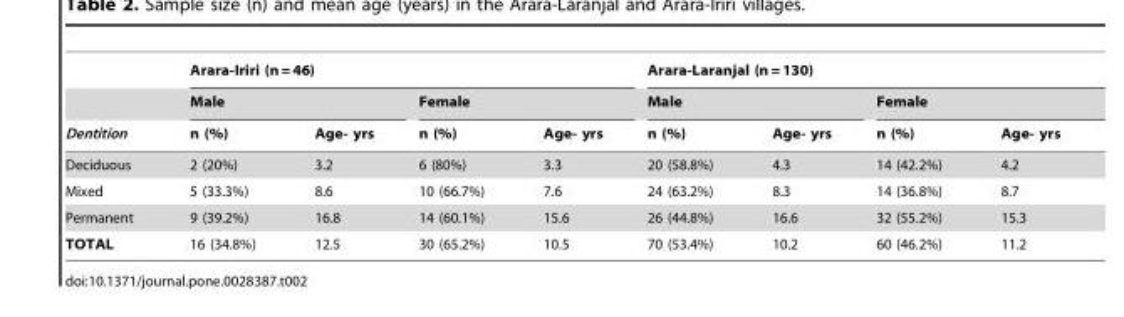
<table><thead><tr><td rowspan="3">Dentition</td><td colspan="4">Arara-Iriri (n = 46)</td><td colspan="4">Arara-Laranjal (n = 130)</td></tr><tr><td colspan="2">Male</td><td colspan="2">Female</td><td colspan="2">Male</td><td colspan="2">Female</td></tr><tr><td>n (%)</td><td>Age- yrs</td><td>n (%)</td><td>Age- yrs</td><td>n (%)</td><td>Age- yrs</td><td>n (%)</td><td>Age- yrs</td></tr></thead><tbody><tr><td>Deciduous</td><td>2 (20%)</td><td>3.2</td><td>6 (80%)</td><td>3.3</td><td>20 (58.8%)</td><td>4.3</td><td>14 (42.2%)</td><td>4.2</td></tr><tr><td>Mixed</td><td>5 (33.3%)</td><td>8.6</td><td>10 (66.7%)</td><td>7.6</td><td>24 (63.2%)</td><td>8.3</td><td>14 (36.8%)</td><td>8.7</td></tr><tr><td>Permanent</td><td>9 (39.2%)</td><td>16.8</td><td>14 (60.1%)</td><td>15.6</td><td>26 (44.8%)</td><td>16.6</td><td>32 (55.2%)</td><td>15.3</td></tr><tr><td>TOTAL</td><td>16 (34.8%)</td><td>12.5</td><td>30 (65.2%)</td><td>10.5</td><td>70 (53.4%)</td><td>10.2</td><td>60 (46.2%)</td><td>11.2</td></tr></tbody></table>